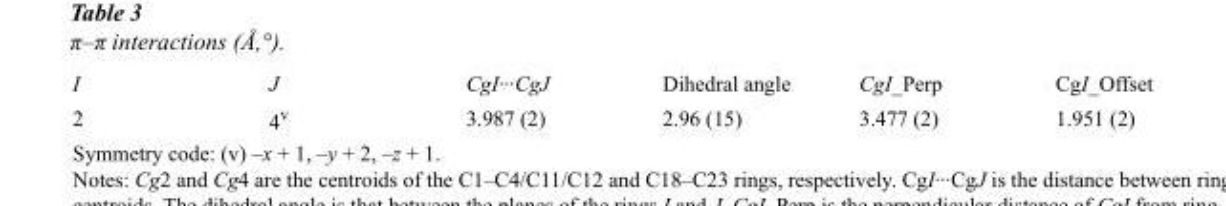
<table><tbody><tr><td>I</td><td>J</td><td>CgI···CgJ</td><td>Dihedral angle</td><td>CgI_Perp</td><td>CgI_Offset</td></tr><tr><td>2</td><td>4<sup>v</sup></td><td>3.987 (2)</td><td>2.96 (15)</td><td>3.477 (2)</td><td>1.951 (2)</td></tr></tbody></table>